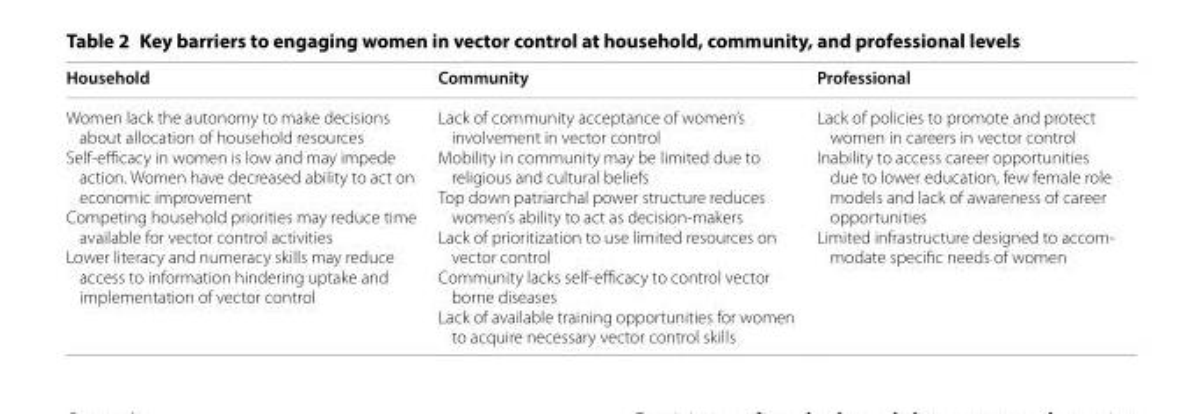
<table><thead><tr><td>Household</td><td>Community</td><td>Professional</td></tr></thead><tbody><tr><td>Women lack the autonomy to make decisions about allocation of household resources Self-efficacy in women is low and may impede action. Women have decreased ability to act on economic improvement Competing household priorities may reduce time available for vector control activities Lower literacy and numeracy skills may reduce access to information hindering uptake and implementation of vector control</td><td>Lack of community acceptance of women’s involvement in vector control Mobility in community may be limited due to religious and cultural beliefs Top down patriarchal power structure reduces women’s ability to act as decision-makers Lack of prioritization to use limited resources on vector control Community lacks self-efficacy to control vector borne diseases Lack of available training opportunities for women to acquire necessary vector control skills</td><td>Lack of policies to promote and protect women in careers in vector control Inability to access career opportunities due to lower education, few female role models and lack of awareness of career opportunities Limited infrastructure designed to accom- modate specific needs of women</td></tr></tbody></table>